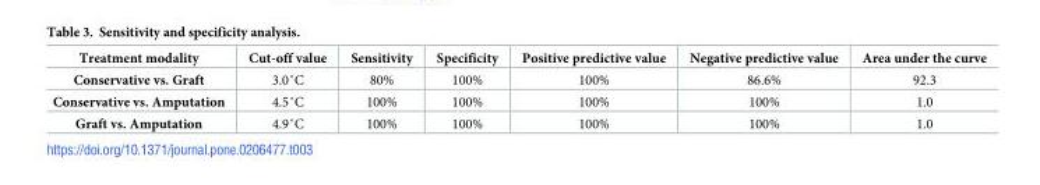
<table><thead><tr><td>Treatment modality</td><td>Cut-off value</td><td>Sensitivity</td><td>Specificity</td><td>Positive predictive value</td><td>Negative predictive value</td><td>Area under the curve</td></tr></thead><tbody><tr><td>Conservative vs. Graft</td><td>3.0˚C</td><td>80%</td><td>100%</td><td>100%</td><td>86.6%</td><td>92.3</td></tr><tr><td>Conservative vs. Amputation</td><td>4.5˚C</td><td>100%</td><td>100%</td><td>100%</td><td>100%</td><td>1.0</td></tr><tr><td>Graft vs. Amputation</td><td>4.9˚C</td><td>100%</td><td>100%</td><td>100%</td><td>100%</td><td>1.0</td></tr></tbody></table>